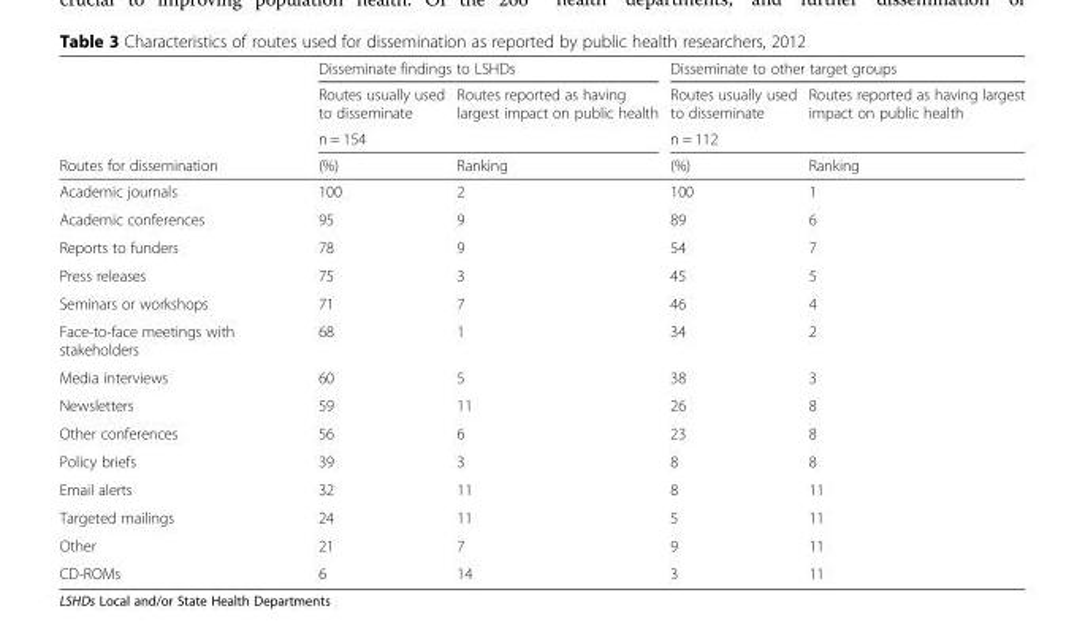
<table><thead><tr><td rowspan="4">Routes for dissemination</td><td colspan="2">Disseminate findings to LSHDs</td><td colspan="2">Disseminate to other target groups</td></tr><tr><td>Routes usually used to disseminate</td><td>Routes reported as having largest impact on public health</td><td>Routes usually used to disseminate</td><td>Routes reported as having largest impact on public health</td></tr><tr><td colspan="2">n = 154</td><td colspan="2">n = 112</td></tr><tr><td>(%)</td><td>Ranking</td><td>(%)</td><td>Ranking</td></tr></thead><tbody><tr><td>Academic journals</td><td>100</td><td>2</td><td>100</td><td>1</td></tr><tr><td>Academic conferences</td><td>95</td><td>9</td><td>89</td><td>6</td></tr><tr><td>Reports to funders</td><td>78</td><td>9</td><td>54</td><td>7</td></tr><tr><td>Press releases</td><td>75</td><td>3</td><td>45</td><td>5</td></tr><tr><td>Seminars or workshops</td><td>71</td><td>7</td><td>46</td><td>4</td></tr><tr><td>Face-to-face meetings with stakeholders</td><td>68</td><td>1</td><td>34</td><td>2</td></tr><tr><td>Media interviews</td><td>60</td><td>5</td><td>38</td><td>3</td></tr><tr><td>Newsletters</td><td>59</td><td>11</td><td>26</td><td>8</td></tr><tr><td>Other conferences</td><td>56</td><td>6</td><td>23</td><td>8</td></tr><tr><td>Policy briefs</td><td>39</td><td>3</td><td>8</td><td>8</td></tr><tr><td>Email alerts</td><td>32</td><td>11</td><td>8</td><td>11</td></tr><tr><td>Targeted mailings</td><td>24</td><td>11</td><td>5</td><td>11</td></tr><tr><td>Other</td><td>21</td><td>7</td><td>9</td><td>11</td></tr><tr><td>CD-ROMs</td><td>6</td><td>14</td><td>3</td><td>11</td></tr></tbody></table>